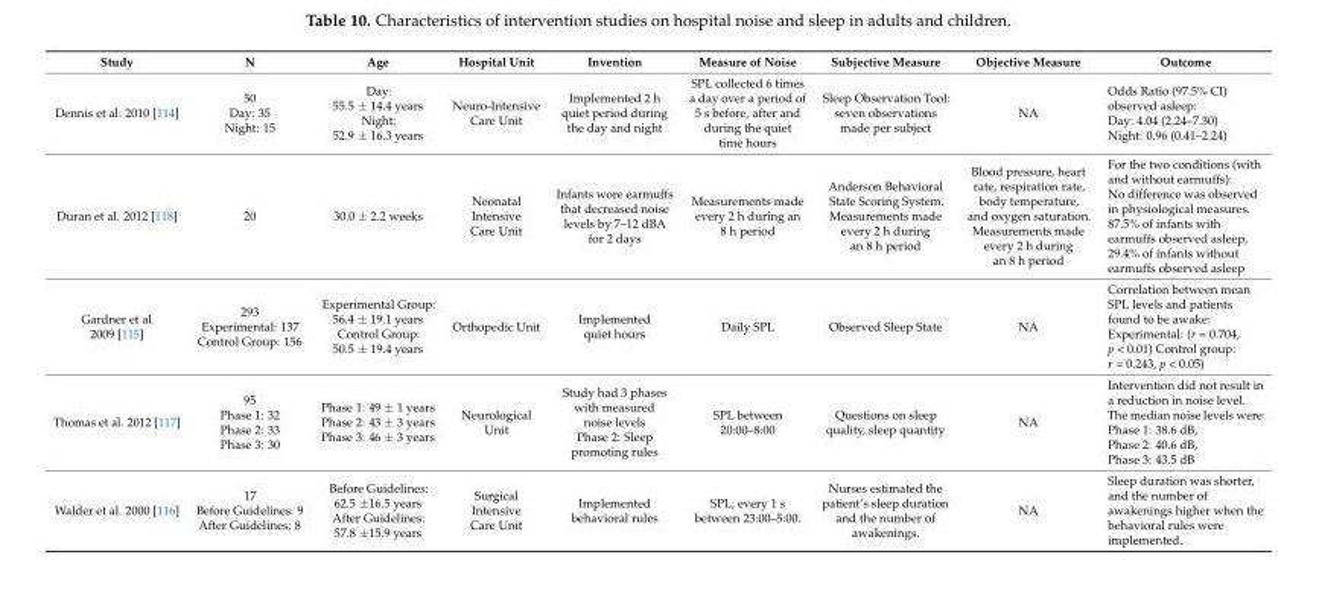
<table><thead><tr><td>Study</td><td>N</td><td>Age</td><td>Hospital Unit</td><td>Invention</td><td>Measure of Noise</td><td>Subjective Measure</td><td>Objective Measure</td><td>Outcome</td></tr></thead><tbody><tr><td>Dennis et al. 2010 [114]</td><td>50 Day: 35 Night: 15</td><td>Day: 55.5 ± 14.4 years Night: 52.9 ± 16.3 years</td><td>Neuro-Intensive Care Unit</td><td>Implemented 2 h quiet period during the day and night</td><td>SPL collected 6 times a day over a period of 5 s before, after and during the quiet time hours</td><td>Sleep Observation Tool: seven observations made per subject</td><td>NA</td><td>Odds Ratio (97.5% CI) observed asleep: Day: 4.04 (2.24–7.30) Night: 0.96 (0.41–2.24)</td></tr><tr><td>Duran et al. 2012 [118]</td><td>20</td><td>30.0 ± 2.2 weeks</td><td>Neonatal Intensive Care Unit</td><td>Infants wore earmuffs that decreased noise levels by 7–12 dBA for 2 days</td><td>Measurements made every 2 h during an 8 h period</td><td>Anderson Behavioral State Scoring System. Measurements made every 2 h during an 8 h period</td><td>Blood pressure, heart rate, respiration rate, body temperature, and oxygen saturation. Measurements made every 2 h during an 8 h period</td><td>For the two conditions (with and without earmuffs): No difference was observed in physiological measures. 87.5% of infants with earmuffs observed asleep, 29.4% of infants without earmuffs observed asleep</td></tr><tr><td>Gardner et al. 2009 [115]</td><td>293 Experimental: 137 Control Group: 156</td><td>Experimental Group: 56.4 ± 19.1 years Control Group: 50.5 ± 19.4 years</td><td>Orthopedic Unit</td><td>Implemented quiet hours</td><td>Daily SPL</td><td>Observed Sleep State</td><td>NA</td><td>Correlation between mean SPL levels and patients found to be awake: Experimental: (r = 0.704, p &lt; 0.01) Control group: r = 0.243, p &lt; 0.05)</td></tr><tr><td>Thomas et al. 2012 [117]</td><td>95 Phase 1: 32 Phase 2: 33 Phase 3: 30</td><td>Phase 1: 49 ± 1 years Phase 2: 43 ± 3 years Phase 3: 46 ± 3 years</td><td>Neurological Unit</td><td>Study had 3 phases with measured noise levels Phase 2: Sleep promoting rules</td><td>SPL between 20:00–8:00</td><td>Questions on sleep quality, sleep quantity</td><td>NA</td><td>Intervention did not result in a reduction in noise level. The median noise levels were: Phase 1: 38.6 dB, Phase 2: 40.6 dB, Phase 3: 43.5 dB</td></tr><tr><td>Walder et al. 2000 [116]</td><td>17 Before Guidelines: 9 After Guidelines: 8</td><td>Before Guidelines: 62.5 ±16.5 years After Guidelines: 57.8 ±15.9 years</td><td>Surgical Intensive Care Unit</td><td>Implemented behavioral rules</td><td>SPL, every 1 s between 23:00–5:00.</td><td>Nurses estimated the patient’s sleep duration and the number of awakenings.</td><td>NA</td><td>Sleep duration was shorter, and the number of awakenings higher when the behavioral rules were implemented.</td></tr></tbody></table>